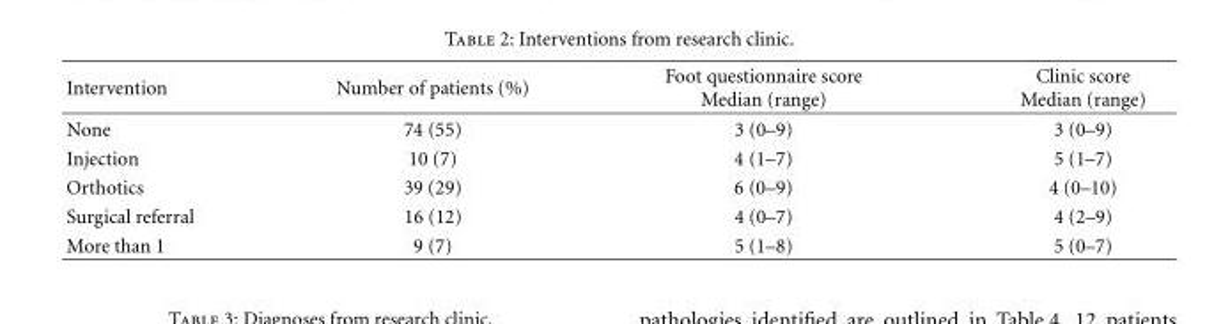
<table><thead><tr><td>Intervention</td><td>Number of patients (%)</td><td>Foot questionnaire score Median (range)</td><td>Clinic score Median (range)</td></tr></thead><tbody><tr><td>None</td><td>74 (55)</td><td>3 (0–9)</td><td>3 (0–9)</td></tr><tr><td>Injection</td><td>10 (7)</td><td>4 (1–7)</td><td>5 (1–7)</td></tr><tr><td>Orthotics</td><td>39 (29)</td><td>6 (0–9)</td><td>4 (0–10)</td></tr><tr><td>Surgical referral</td><td>16 (12)</td><td>4 (0–7)</td><td>4 (2–9)</td></tr><tr><td>More than 1</td><td>9 (7)</td><td>5 (1–8)</td><td>5 (0–7)</td></tr></tbody></table>